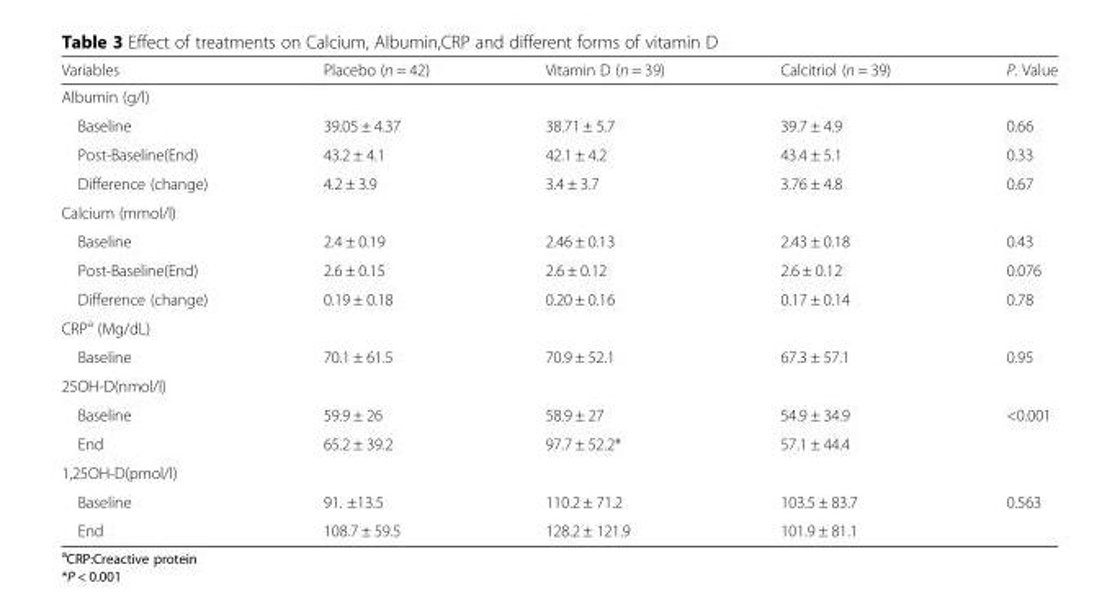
<table><thead><tr><td>Variables</td><td>Placebo (n = 42)</td><td>Vitamin D (n = 39)</td><td>Calcitriol (n = 39)</td><td>P. Value</td></tr></thead><tbody><tr><td colspan="5">Albumin (g/l)</td></tr><tr><td>Baseline</td><td>39.05 ± 4.37</td><td>38.71 ± 5.7</td><td>39.7 ± 4.9</td><td>0.66</td></tr><tr><td>Post-Baseline(End)</td><td>43.2 ± 4.1</td><td>42.1 ± 4.2</td><td>43.4 ± 5.1</td><td>0.33</td></tr><tr><td>Difference (change)</td><td>4.2 ± 3.9</td><td>3.4 ± 3.7</td><td>3.76 ± 4.8</td><td>0.67</td></tr><tr><td colspan="5">Calcium (mmol/l)</td></tr><tr><td>Baseline</td><td>2.4 ± 0.19</td><td>2.46 ± 0.13</td><td>2.43 ± 0.18</td><td>0.43</td></tr><tr><td>Post-Baseline(End)</td><td>2.6 ± 0.15</td><td>2.6 ± 0.12</td><td>2.6 ± 0.12</td><td>0.076</td></tr><tr><td>Difference (change)</td><td>0.19 ± 0.18</td><td>0.20 ± 0.16</td><td>0.17 ± 0.14</td><td>0.78</td></tr><tr><td colspan="5">CRP<sup>a</sup> (Mg/dL)</td></tr><tr><td>Baseline</td><td>70.1 ± 61.5</td><td>70.9 ± 52.1</td><td>67.3 ± 57.1</td><td>0.95</td></tr><tr><td colspan="5">25OH-D(nmol/l)</td></tr><tr><td>Baseline</td><td>59.9 ± 26</td><td>58.9 ± 27</td><td>54.9 ± 34.9</td><td>&lt;0.001</td></tr><tr><td>End</td><td>65.2 ± 39.2</td><td>97.7 ± 52.2*</td><td>57.1 ± 44.4</td><td></td></tr><tr><td colspan="5">1,25OH-D(pmol/l)</td></tr><tr><td>Baseline</td><td>91. ±13.5</td><td>110.2 ± 71.2</td><td>103.5 ± 83.7</td><td>0.563</td></tr><tr><td>End</td><td>108.7 ± 59.5</td><td>128.2 ± 121.9</td><td>101.9 ± 81.1</td><td></td></tr></tbody></table>